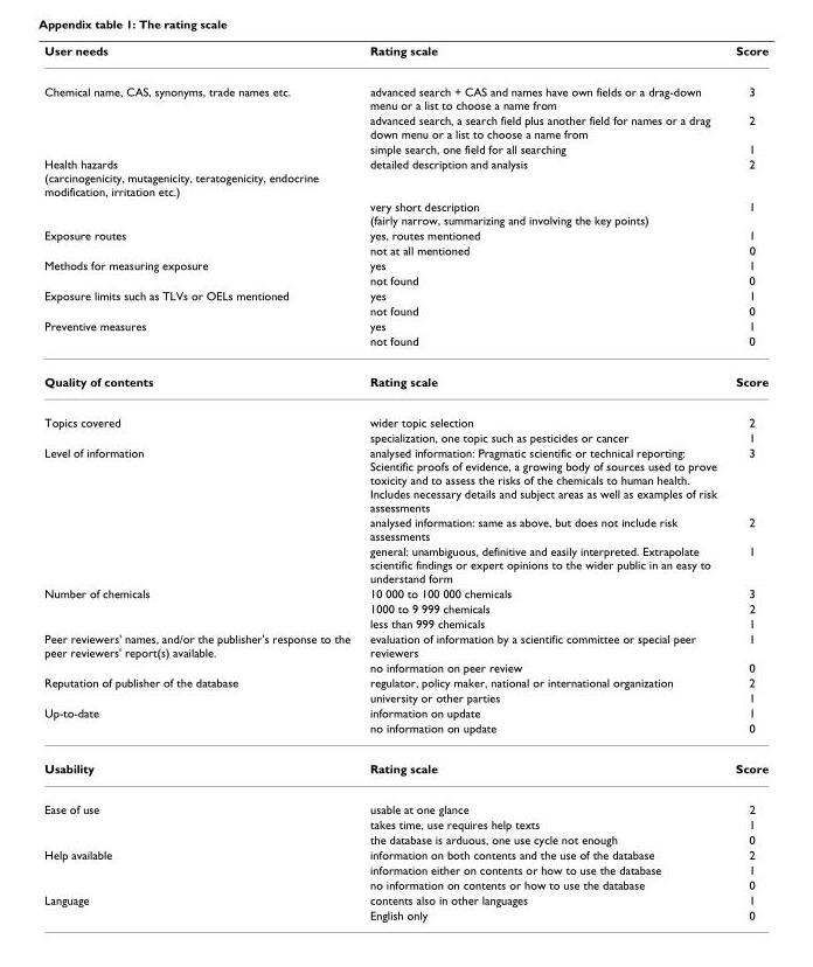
<table><thead><tr><td>User needs</td><td>Rating scale</td><td>Score</td></tr></thead><tbody><tr><td rowspan="3">Chemical name, CAS, synonyms, trade names etc.</td><td>advanced search + CAS and names have own fields or a drag-down menu or a list to choose a name from</td><td>3</td></tr><tr><td>advanced search, a search field plus another field for names or a drag down menu or a list to choose a name from</td><td>2</td></tr><tr><td>simple search, one field for all searching</td><td>1</td></tr><tr><td rowspan="2">Health hazards (carcinogenicity, mutagenicity, teratogenicity, endocrine modification, irritation etc.)</td><td>detailed description and analysis</td><td>2</td></tr><tr><td>very short description (fairly narrow, summarizing and involving the key points)</td><td>1</td></tr><tr><td rowspan="2">Exposure routes</td><td>yes, routes mentioned</td><td>1</td></tr><tr><td>not at all mentioned</td><td>0</td></tr><tr><td rowspan="2">Methods for measuring exposure</td><td>yes</td><td>1</td></tr><tr><td>not found</td><td>0</td></tr><tr><td rowspan="2">Exposure limits such as TLVs or OELs mentioned</td><td>yes</td><td>1</td></tr><tr><td>not found</td><td>0</td></tr><tr><td rowspan="2">Preventive measures</td><td>yes</td><td>1</td></tr><tr><td>not found</td><td>0</td></tr><tr><td>Quality of contents</td><td>Rating scale</td><td>Score</td></tr><tr><td rowspan="2">Topics covered</td><td>wider topic selection</td><td>2</td></tr><tr><td>specialization, one topic such as pesticides or cancer</td><td>1</td></tr><tr><td rowspan="3">Level of information</td><td>analysed information: Pragmatic scientific or technical reporting: Scientific proofs of evidence, a growing body of sources used to prove toxicity and to assess the risks of the chemicals to human health. Includes necessary details and subject areas as well as examples of risk assessments</td><td>3</td></tr><tr><td>analysed information: same as above, but does not include risk assessments</td><td>2</td></tr><tr><td>general: unambiguous, definitive and easily interpreted. Extrapolate scientific findings or expert opinions to the wider public in an easy to understand form</td><td>1</td></tr><tr><td rowspan="3">Number of chemicals</td><td>10 000 to 100 000 chemicals</td><td>3</td></tr><tr><td>1000 to 9 999 chemicals</td><td>2</td></tr><tr><td>less than 999 chemicals</td><td>1</td></tr><tr><td rowspan="2">Peer reviewers&#x27; names, and/or the publisher&#x27;s response to the peer reviewers&#x27; report(s) available.</td><td>evaluation of information by a scientific committee or special peer reviewers</td><td>1</td></tr><tr><td>no information on peer review</td><td>0</td></tr><tr><td rowspan="2">Reputation of publisher of the database</td><td>regulator, policy maker, national or international organization</td><td>2</td></tr><tr><td>university or other parties</td><td>1</td></tr><tr><td rowspan="2">Up-to-date</td><td>information on update</td><td>1</td></tr><tr><td>no information on update</td><td>0</td></tr><tr><td>Usability</td><td>Rating scale</td><td>Score</td></tr><tr><td rowspan="3">Ease of use</td><td>usable at one glance</td><td>2</td></tr><tr><td>takes time, use requires help texts</td><td>1</td></tr><tr><td>the database is arduous, one use cycle not enough</td><td>0</td></tr><tr><td rowspan="3">Help available</td><td>information on both contents and the use of the database</td><td>2</td></tr><tr><td>information either on contents or how to use the database</td><td>1</td></tr><tr><td>no information on contents or how to use the database</td><td>0</td></tr><tr><td rowspan="2">Language</td><td>contents also in other languages</td><td>1</td></tr><tr><td>English only</td><td>0</td></tr></tbody></table>